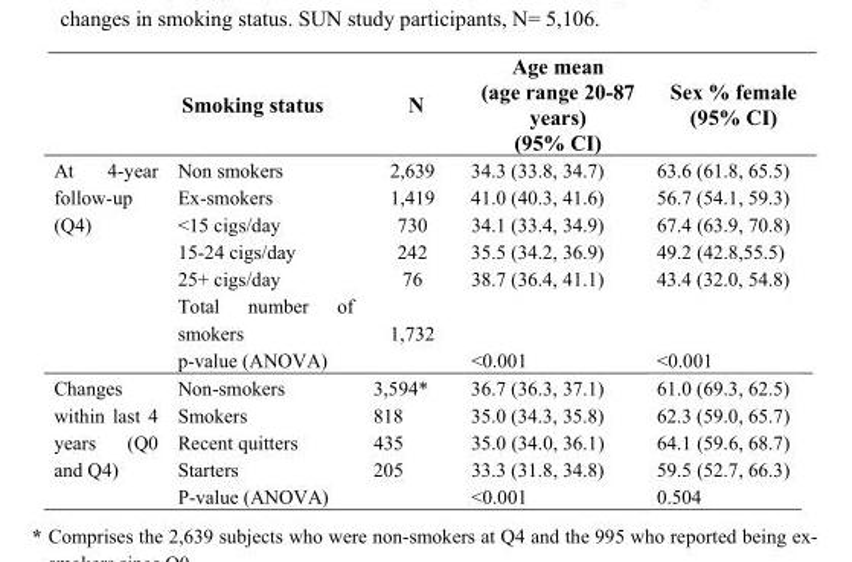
<table><thead><tr><td></td><td>Smoking status</td><td>N</td><td>Age mean (age range 20-87 years) (95% CI)</td><td>Sex % female (95% CI)</td></tr></thead><tbody><tr><td rowspan="7">At 4-year follow-up (Q4)</td><td>Non smokers</td><td>2,639</td><td>34.3 (33.8, 34.7)</td><td>63.6 (61.8, 65.5)</td></tr><tr><td>Ex-smokers</td><td>1,419</td><td>41.0 (40.3, 41.6)</td><td>56.7 (54.1, 59.3)</td></tr><tr><td>&lt;15 cigs/day</td><td>730</td><td>34.1 (33.4, 34.9)</td><td>67.4 (63.9, 70.8)</td></tr><tr><td>15-24 cigs/day</td><td>242</td><td>35.5 (34.2, 36.9)</td><td>49.2 (42.8,55.5)</td></tr><tr><td>25+ cigs/day</td><td>76</td><td>38.7 (36.4, 41.1)</td><td>43.4 (32.0, 54.8)</td></tr><tr><td>Total number of smokers</td><td>1,732</td><td></td><td></td></tr><tr><td>p-value (ANOVA)</td><td></td><td>&lt;0.001</td><td>&lt;0.001</td></tr><tr><td rowspan="5">Changes within last 4 years (Q0 and Q4)</td><td>Non-smokers</td><td>3,594*</td><td>36.7 (36.3, 37.1)</td><td>61.0 (69.3, 62.5)</td></tr><tr><td>Smokers</td><td>818</td><td>35.0 (34.3, 35.8)</td><td>62.3 (59.0, 65.7)</td></tr><tr><td>Recent quitters</td><td>435</td><td>35.0 (34.0, 36.1)</td><td>64.1 (59.6, 68.7)</td></tr><tr><td>Starters</td><td>205</td><td>33.3 (31.8, 34.8)</td><td>59.5 (52.7, 66.3)</td></tr><tr><td>P-value (ANOVA)</td><td></td><td>&lt;0.001</td><td>0.504</td></tr></tbody></table>